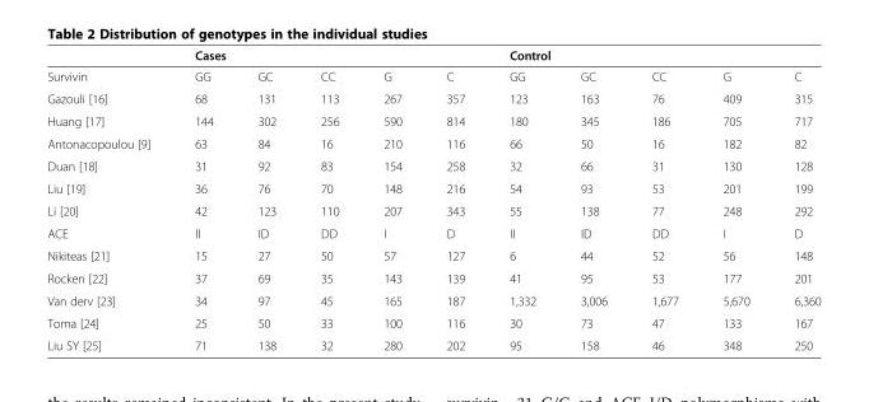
<table><thead><tr><td rowspan="2">Survivin</td><td colspan="5">Cases</td><td colspan="5">Control</td></tr><tr><td>GG</td><td>GC</td><td>CC</td><td>G</td><td>C</td><td>GG</td><td>GC</td><td>CC</td><td>G</td><td>C</td></tr></thead><tbody><tr><td>Gazouli [16]</td><td>68</td><td>131</td><td>113</td><td>267</td><td>357</td><td>123</td><td>163</td><td>76</td><td>409</td><td>315</td></tr><tr><td>Huang [17]</td><td>144</td><td>302</td><td>256</td><td>590</td><td>814</td><td>180</td><td>345</td><td>186</td><td>705</td><td>717</td></tr><tr><td>Antonacopoulou [9]</td><td>63</td><td>84</td><td>16</td><td>210</td><td>116</td><td>66</td><td>50</td><td>16</td><td>182</td><td>82</td></tr><tr><td>Duan [18]</td><td>31</td><td>92</td><td>83</td><td>154</td><td>258</td><td>32</td><td>66</td><td>31</td><td>130</td><td>128</td></tr><tr><td>Liu [19]</td><td>36</td><td>76</td><td>70</td><td>148</td><td>216</td><td>54</td><td>93</td><td>53</td><td>201</td><td>199</td></tr><tr><td>Li [20]</td><td>42</td><td>123</td><td>110</td><td>207</td><td>343</td><td>55</td><td>138</td><td>77</td><td>248</td><td>292</td></tr><tr><td>ACE</td><td>II</td><td>ID</td><td>DD</td><td>I</td><td>D</td><td>II</td><td>ID</td><td>DD</td><td>I</td><td>D</td></tr><tr><td>Nikiteas [21]</td><td>15</td><td>27</td><td>50</td><td>57</td><td>127</td><td>6</td><td>44</td><td>52</td><td>56</td><td>148</td></tr><tr><td>Rocken [22]</td><td>37</td><td>69</td><td>35</td><td>143</td><td>139</td><td>41</td><td>95</td><td>53</td><td>177</td><td>201</td></tr><tr><td>Van derv [23]</td><td>34</td><td>97</td><td>45</td><td>165</td><td>187</td><td>1,332</td><td>3,006</td><td>1,677</td><td>5,670</td><td>6,360</td></tr><tr><td>Toma [24]</td><td>25</td><td>50</td><td>33</td><td>100</td><td>116</td><td>30</td><td>73</td><td>47</td><td>133</td><td>167</td></tr><tr><td>Liu SY [25]</td><td>71</td><td>138</td><td>32</td><td>280</td><td>202</td><td>95</td><td>158</td><td>46</td><td>348</td><td>250</td></tr></tbody></table>